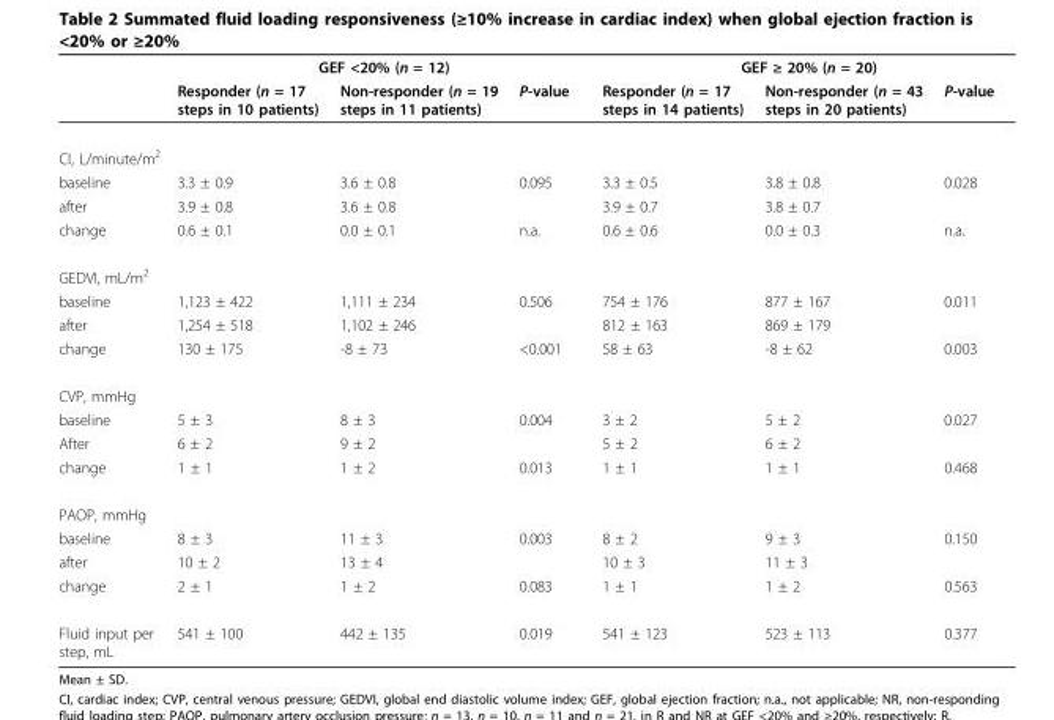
<table><thead><tr><td rowspan="2"></td><td colspan="3">GEF &lt;20% (n = 12)</td><td colspan="3">GEF ≥ 20% (n = 20)</td></tr><tr><td>Responder (n = 17 steps in 10 patients)</td><td>Non-responder (n = 19 steps in 11 patients)</td><td>P-value</td><td>Responder (n = 17 steps in 14 patients)</td><td>Non-responder (n = 43 steps in 20 patients)</td><td>P-value</td></tr></thead><tbody><tr><td colspan="7">CI, L/minute/m<sup>2</sup></td></tr><tr><td>baseline</td><td>3.3 ± 0.9</td><td>3.6 ± 0.8</td><td>0.095</td><td>3.3 ± 0.5</td><td>3.8 ± 0.8</td><td>0.028</td></tr><tr><td>after</td><td>3.9 ± 0.8</td><td>3.6 ± 0.8</td><td></td><td>3.9 ± 0.7</td><td>3.8 ± 0.7</td><td></td></tr><tr><td>change</td><td>0.6 ± 0.1</td><td>0.0 ± 0.1</td><td>n.a.</td><td>0.6 ± 0.6</td><td>0.0 ± 0.3</td><td>n.a.</td></tr><tr><td colspan="7">GEDVI, mL/m<sup>2</sup></td></tr><tr><td>baseline</td><td>1,123 ± 422</td><td>1,111 ± 234</td><td>0.506</td><td>754 ± 176</td><td>877 ± 167</td><td>0.011</td></tr><tr><td>after</td><td>1,254 ± 518</td><td>1,102 ± 246</td><td></td><td>812 ± 163</td><td>869 ± 179</td><td></td></tr><tr><td>change</td><td>130 ± 175</td><td>-8 ± 73</td><td>&lt;0.001</td><td>58 ± 63</td><td>-8 ± 62</td><td>0.003</td></tr><tr><td colspan="7">CVP, mmHg</td></tr><tr><td>baseline</td><td>5 ± 3</td><td>8 ± 3</td><td>0.004</td><td>3 ± 2</td><td>5 ± 2</td><td>0.027</td></tr><tr><td>After</td><td>6 ± 2</td><td>9 ± 2</td><td></td><td>5 ± 2</td><td>6 ± 2</td><td></td></tr><tr><td>change</td><td>1 ± 1</td><td>1 ± 2</td><td>0.013</td><td>1 ± 1</td><td>1 ± 1</td><td>0.468</td></tr><tr><td colspan="7">PAOP, mmHg</td></tr><tr><td>baseline</td><td>8 ± 3</td><td>11 ± 3</td><td>0.003</td><td>8 ± 2</td><td>9 ± 3</td><td>0.150</td></tr><tr><td>after</td><td>10 ± 2</td><td>13 ± 4</td><td></td><td>10 ± 3</td><td>11 ± 3</td><td></td></tr><tr><td>change</td><td>2 ± 1</td><td>1 ± 2</td><td>0.083</td><td>1 ± 1</td><td>1 ± 2</td><td>0.563</td></tr><tr><td>Fluid input per step, mL</td><td>541 ± 100</td><td>442 ± 135</td><td>0.019</td><td>541 ± 123</td><td>523 ± 113</td><td>0.377</td></tr></tbody></table>